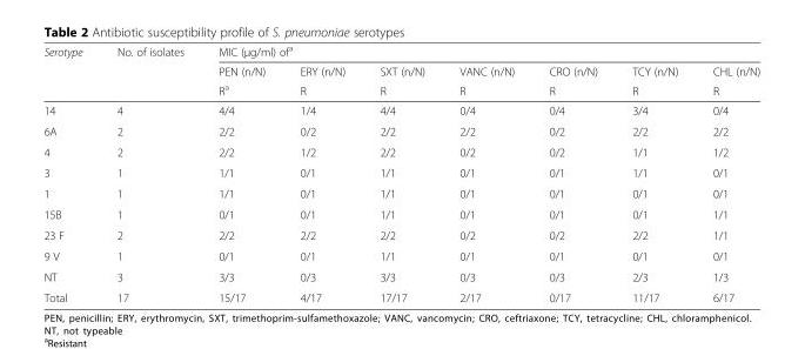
<table><thead><tr><td rowspan="3">Serotype</td><td rowspan="3">No. of isolates</td><td colspan="7">MIC (μg/ml) of<sup>a</sup></td></tr><tr><td rowspan="2">PEN (n/N) R<sup>a</sup></td><td rowspan="2">ERY (n/N) R</td><td rowspan="2">SXT (n/N) R</td><td rowspan="2">VANC (n/N) R</td><td rowspan="2">CRO (n/N) R</td><td rowspan="2">TCY (n/N) R</td><td rowspan="2">CHL (n/N) R</td></tr><tr></tr></thead><tbody><tr><td>14</td><td>4</td><td>4/4</td><td>1/4</td><td>4/4</td><td>0/4</td><td>0/4</td><td>3/4</td><td>0/4</td></tr><tr><td>6A</td><td>2</td><td>2/2</td><td>0/2</td><td>2/2</td><td>2/2</td><td>0/2</td><td>2/2</td><td>2/2</td></tr><tr><td>4</td><td>2</td><td>2/2</td><td>1/2</td><td>2/2</td><td>0/2</td><td>0/2</td><td>1/1</td><td>1/2</td></tr><tr><td>3</td><td>1</td><td>1/1</td><td>0/1</td><td>1/1</td><td>0/1</td><td>0/1</td><td>1/1</td><td>0/1</td></tr><tr><td>1</td><td>1</td><td>1/1</td><td>0/1</td><td>1/1</td><td>0/1</td><td>0/1</td><td>0/1</td><td>0/1</td></tr><tr><td>15B</td><td>1</td><td>0/1</td><td>0/1</td><td>1/1</td><td>0/1</td><td>0/1</td><td>0/1</td><td>1/1</td></tr><tr><td>23 F</td><td>2</td><td>2/2</td><td>2/2</td><td>2/2</td><td>0/2</td><td>0/2</td><td>2/2</td><td>1/1</td></tr><tr><td>9 V</td><td>1</td><td>0/1</td><td>0/1</td><td>1/1</td><td>0/1</td><td>0/1</td><td>0/1</td><td>0/1</td></tr><tr><td>NT</td><td>3</td><td>3/3</td><td>0/3</td><td>3/3</td><td>0/3</td><td>0/3</td><td>2/3</td><td>1/3</td></tr><tr><td>Total</td><td>17</td><td>15/17</td><td>4/17</td><td>17/17</td><td>2/17</td><td>0/17</td><td>11/17</td><td>6/17</td></tr></tbody></table>